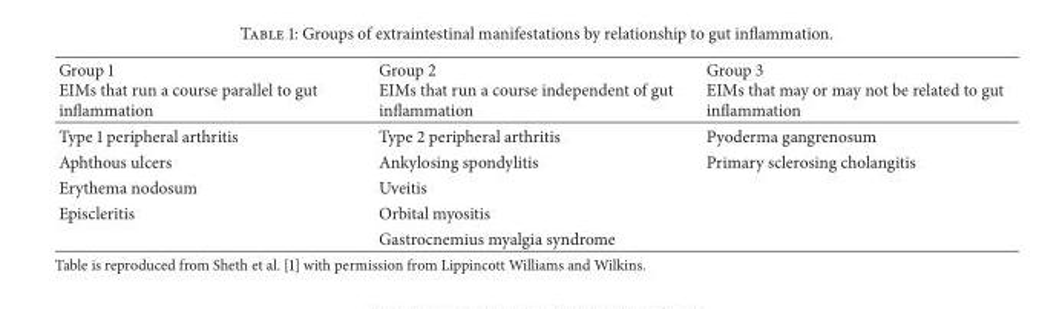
<table><thead><tr><td>Group 1 EIMs that run a course parallel to gut inflammation</td><td>Group 2 EIMs that run a course independent of gut inflammation</td><td>Group 3 EIMs that may or may not be related to gut inflammation</td></tr></thead><tbody><tr><td>Type 1 peripheral arthritis</td><td>Type 2 peripheral arthritis</td><td>Pyoderma gangrenosum</td></tr><tr><td>Aphthous ulcers</td><td>Ankylosing spondylitis</td><td>Primary sclerosing cholangitis</td></tr><tr><td>Erythema nodosum</td><td>Uveitis</td><td></td></tr><tr><td rowspan="2">Episcleritis</td><td>Orbital myositis</td><td></td></tr><tr><td>Gastrocnemius myalgia syndrome</td><td></td></tr></tbody></table>